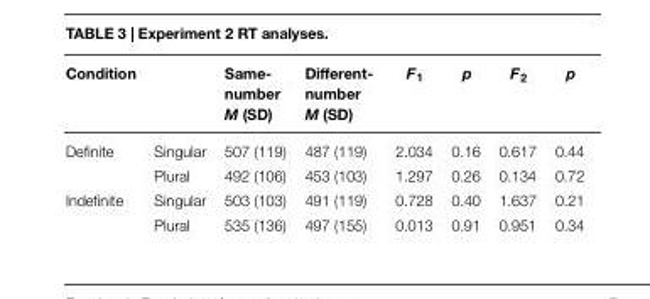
<table><thead><tr><td>Condition</td><td></td><td>Same- number M (SD)</td><td>Different- number M (SD)</td><td>F<sub>1</sub></td><td>p</td><td>F<sub>2</sub></td><td>p</td></tr></thead><tbody><tr><td rowspan="2">Definite</td><td>Singular</td><td>507 (119)</td><td>487 (119)</td><td>2.034</td><td>0.16</td><td>0.617</td><td>0.44</td></tr><tr><td>Plural</td><td>492 (106)</td><td>453 (103)</td><td>1.297</td><td>0.26</td><td>0.134</td><td>0.72</td></tr><tr><td rowspan="2">Indefinite</td><td>Singular</td><td>503 (103)</td><td>491 (119)</td><td>0.728</td><td>0.40</td><td>1.637</td><td>0.21</td></tr><tr><td>Plural</td><td>535 (136)</td><td>497 (155)</td><td>0.013</td><td>0.91</td><td>0.951</td><td>0.34</td></tr></tbody></table>